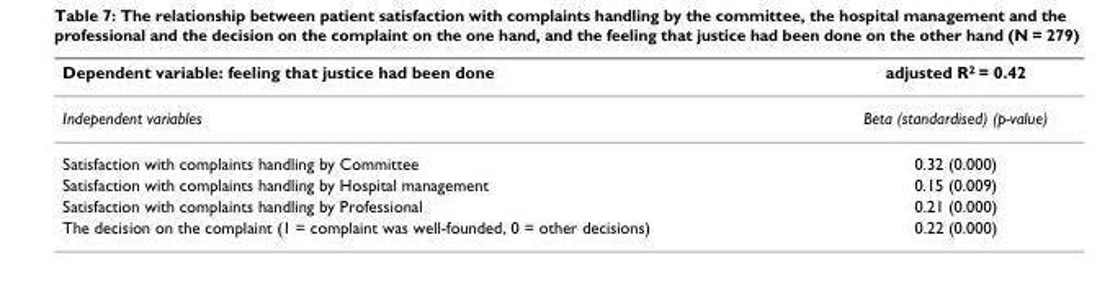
<table><thead><tr><td>Dependent variable: feeling that justice had been done</td><td>adjusted R<sup>2</sup> = 0.42</td></tr></thead><tbody><tr><td>Independent variables</td><td>Beta (standardised) (p-value)</td></tr><tr><td>Satisfaction with complaints handling by Committee</td><td>0.32 (0.000)</td></tr><tr><td>Satisfaction with complaints handling by Hospital management</td><td>0.15 (0.009)</td></tr><tr><td>Satisfaction with complaints handling by Professional</td><td>0.21 (0.000)</td></tr><tr><td>The decision on the complaint (1 = complaint was well-founded, 0 = other decisions)</td><td>0.22 (0.000)</td></tr></tbody></table>